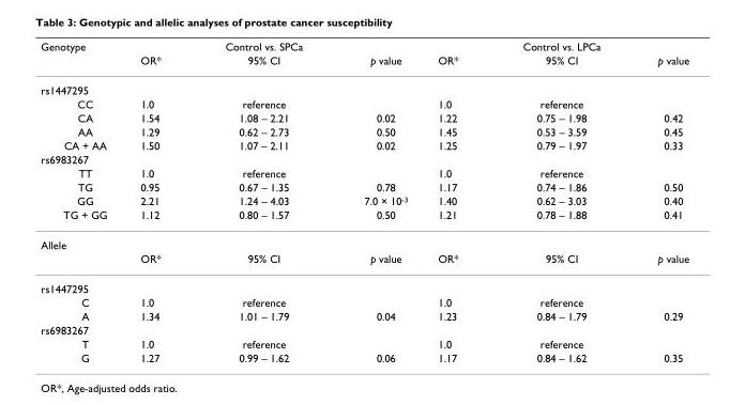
<table><thead><tr><td rowspan="2">Genotype</td><td rowspan="2">OR*</td><td rowspan="2">Control vs. SPCa 95% CI</td><td rowspan="2">p value</td><td rowspan="2">OR*</td><td rowspan="2">Control vs. LPCa 95% CI</td><td rowspan="2">p value</td></tr><tr></tr></thead><tbody><tr><td colspan="7">rs1447295</td></tr><tr><td>CC</td><td>1.0</td><td>reference</td><td></td><td>1.0</td><td>reference</td><td></td></tr><tr><td>CA</td><td>1.54</td><td>1.08 – 2.21</td><td>0.02</td><td>1.22</td><td>0.75 – 1.98</td><td>0.42</td></tr><tr><td>AA</td><td>1.29</td><td>0.62 – 2.73</td><td>0.50</td><td>1.45</td><td>0.53 – 3.59</td><td>0.45</td></tr><tr><td>CA + AA</td><td>1.50</td><td>1.07 – 2.11</td><td>0.02</td><td>1.25</td><td>0.79 – 1.97</td><td>0.33</td></tr><tr><td colspan="7">rs6983267</td></tr><tr><td>TT</td><td>1.0</td><td>reference</td><td></td><td>1.0</td><td>reference</td><td></td></tr><tr><td>TG</td><td>0.95</td><td>0.67 – 1.35</td><td>0.78</td><td>1.17</td><td>0.74 – 1.86</td><td>0.50</td></tr><tr><td>GG</td><td>2.21</td><td>1.24 – 4.03</td><td>7.0 × 10<sup>-3</sup></td><td>1.40</td><td>0.62 – 3.03</td><td>0.40</td></tr><tr><td>TG + GG</td><td>1.12</td><td>0.80 – 1.57</td><td>0.50</td><td>1.21</td><td>0.78 – 1.88</td><td>0.41</td></tr><tr><td colspan="7">Allele</td></tr><tr><td></td><td>OR*</td><td>95% CI</td><td>p value</td><td>OR*</td><td>95% CI</td><td>p value</td></tr><tr><td colspan="7">rs1447295</td></tr><tr><td>C</td><td>1.0</td><td>reference</td><td></td><td>1.0</td><td>reference</td><td></td></tr><tr><td>A</td><td>1.34</td><td>1.01 – 1.79</td><td>0.04</td><td>1.23</td><td>0.84 – 1.79</td><td>0.29</td></tr><tr><td colspan="7">rs6983267</td></tr><tr><td>T</td><td>1.0</td><td>reference</td><td></td><td>1.0</td><td>reference</td><td></td></tr><tr><td>G</td><td>1.27</td><td>0.99 – 1.62</td><td>0.06</td><td>1.17</td><td>0.84 – 1.62</td><td>0.35</td></tr></tbody></table>